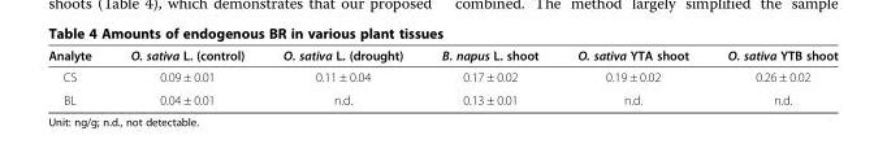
<table><thead><tr><td>Analyte</td><td>O. sativa L. (control)</td><td>O. sativa L. (drought)</td><td>B. napus L. shoot</td><td>O. sativa YTA shoot</td><td>O. sativa YTB shoot</td></tr></thead><tbody><tr><td>CS</td><td>0.09 ± 0.01</td><td>0.11 ± 0.04</td><td>0.17 ± 0.02</td><td>0.19 ± 0.02</td><td>0.26 ± 0.02</td></tr><tr><td>BL</td><td>0.04 ± 0.01</td><td>n.d.</td><td>0.13 ± 0.01</td><td>n.d.</td><td>n.d.</td></tr></tbody></table>